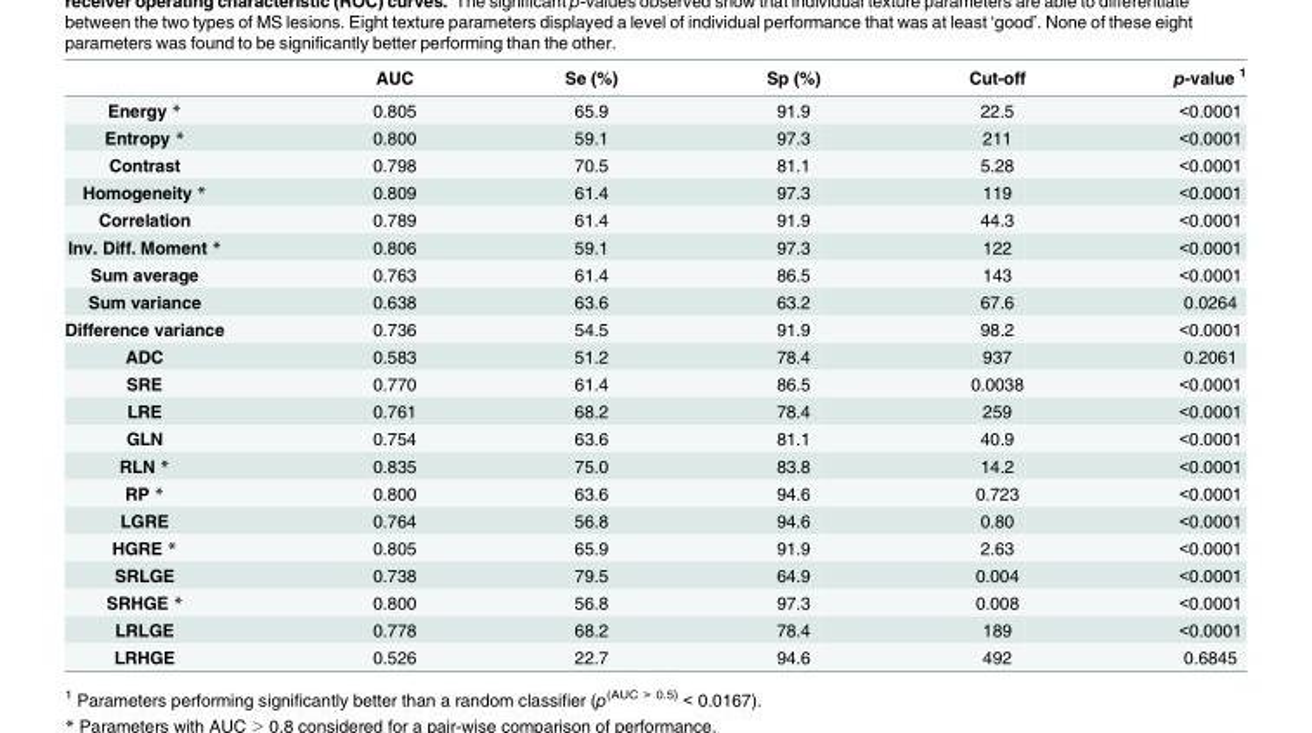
<table><thead><tr><td></td><td>AUC</td><td>Se (%)</td><td>Sp (%)</td><td>Cut-off</td><td>p-value <sup>1</sup></td></tr></thead><tbody><tr><td>Energy *</td><td>0.805</td><td>65.9</td><td>91.9</td><td>22.5</td><td>&lt;0.0001</td></tr><tr><td>Entropy *</td><td>0.800</td><td>59.1</td><td>97.3</td><td>211</td><td>&lt;0.0001</td></tr><tr><td>Contrast</td><td>0.798</td><td>70.5</td><td>81.1</td><td>5.28</td><td>&lt;0.0001</td></tr><tr><td>Homogeneity *</td><td>0.809</td><td>61.4</td><td>97.3</td><td>119</td><td>&lt;0.0001</td></tr><tr><td>Correlation</td><td>0.789</td><td>61.4</td><td>91.9</td><td>44.3</td><td>&lt;0.0001</td></tr><tr><td>Inv. Diff. Moment *</td><td>0.806</td><td>59.1</td><td>97.3</td><td>122</td><td>&lt;0.0001</td></tr><tr><td>Sum average</td><td>0.763</td><td>61.4</td><td>86.5</td><td>143</td><td>&lt;0.0001</td></tr><tr><td>Sum variance</td><td>0.638</td><td>63.6</td><td>63.2</td><td>67.6</td><td>0.0264</td></tr><tr><td>Difference variance</td><td>0.736</td><td>54.5</td><td>91.9</td><td>98.2</td><td>&lt;0.0001</td></tr><tr><td>ADC</td><td>0.583</td><td>51.2</td><td>78.4</td><td>937</td><td>0.2061</td></tr><tr><td>SRE</td><td>0.770</td><td>61.4</td><td>86.5</td><td>0.0038</td><td>&lt;0.0001</td></tr><tr><td>LRE</td><td>0.761</td><td>68.2</td><td>78.4</td><td>259</td><td>&lt;0.0001</td></tr><tr><td>GLN</td><td>0.754</td><td>63.6</td><td>81.1</td><td>40.9</td><td>&lt;0.0001</td></tr><tr><td>RLN *</td><td>0.835</td><td>75.0</td><td>83.8</td><td>14.2</td><td>&lt;0.0001</td></tr><tr><td>RP *</td><td>0.800</td><td>63.6</td><td>94.6</td><td>0.723</td><td>&lt;0.0001</td></tr><tr><td>LGRE</td><td>0.764</td><td>56.8</td><td>94.6</td><td>0.80</td><td>&lt;0.0001</td></tr><tr><td>HGRE *</td><td>0.805</td><td>65.9</td><td>91.9</td><td>2.63</td><td>&lt;0.0001</td></tr><tr><td>SRLGE</td><td>0.738</td><td>79.5</td><td>64.9</td><td>0.004</td><td>&lt;0.0001</td></tr><tr><td>SRHGE *</td><td>0.800</td><td>56.8</td><td>97.3</td><td>0.008</td><td>&lt;0.0001</td></tr><tr><td>LRLGE</td><td>0.778</td><td>68.2</td><td>78.4</td><td>189</td><td>&lt;0.0001</td></tr><tr><td>LRHGE</td><td>0.526</td><td>22.7</td><td>94.6</td><td>492</td><td>0.6845</td></tr></tbody></table>